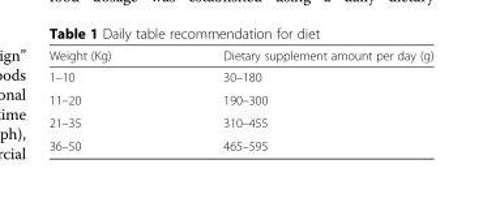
<table><thead><tr><td>Weight (Kg)</td><td>Dietary supplement amount per day (g)</td></tr></thead><tbody><tr><td>1–10</td><td>30–180</td></tr><tr><td>11–20</td><td>190–300</td></tr><tr><td>21–35</td><td>310–455</td></tr><tr><td>36–50</td><td>465–595</td></tr></tbody></table>